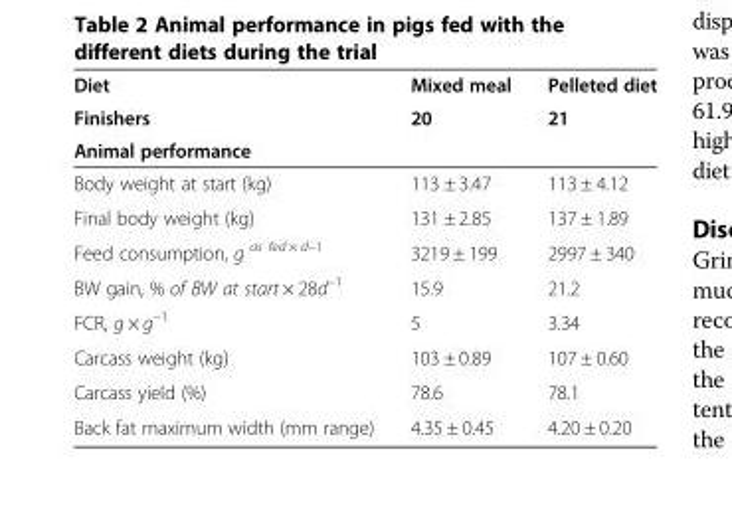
<table><thead><tr><td rowspan="3">Diet Finishers Animal performance</td><td rowspan="3">Mixed meal 20</td><td rowspan="3">Pelleted diet 21</td></tr><tr></tr><tr></tr></thead><tbody><tr><td>Body weight at start (kg)</td><td>113 ± 3.47</td><td>113 ± 4.12</td></tr><tr><td>Final body weight (kg)</td><td>131 ± 2.85</td><td>137 ± 1.89</td></tr><tr><td>Feed consumption, g <sup>as fed × d–1</sup></td><td>3219 ± 199</td><td>2997 ± 340</td></tr><tr><td>BW gain, % of BW at start × 28d<sup>–1</sup></td><td>15.9</td><td>21.2</td></tr><tr><td>FCR, g × g<sup>–1</sup></td><td>5</td><td>3.34</td></tr><tr><td>Carcass weight (kg)</td><td>103 ± 0.89</td><td>107 ± 0.60</td></tr><tr><td>Carcass yield (%)</td><td>78.6</td><td>78.1</td></tr><tr><td>Back fat maximum width (mm range)</td><td>4.35 ± 0.45</td><td>4.20 ± 0.20</td></tr></tbody></table>